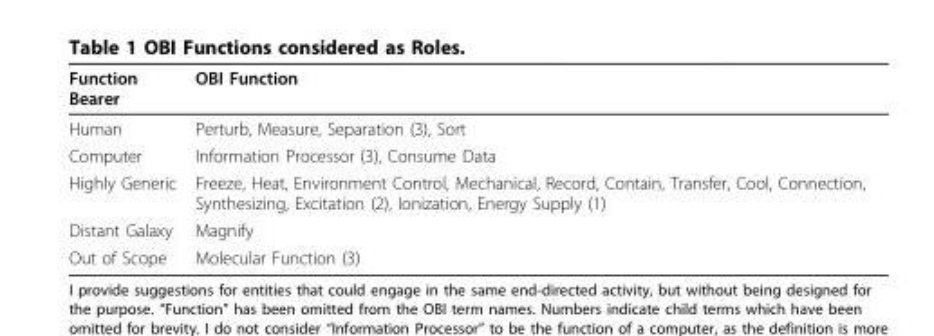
<table><thead><tr><td>Function Bearer</td><td>OBI Function</td></tr></thead><tbody><tr><td>Human</td><td>Perturb, Measure, Separation (3), Sort</td></tr><tr><td>Computer</td><td>Information Processor (3), Consume Data</td></tr><tr><td>Highly Generic</td><td>Freeze, Heat, Environment Control, Mechanical, Record, Contain, Transfer, Cool, Connection, Synthesizing, Excitation (2), Ionization, Energy Supply (1)</td></tr><tr><td>Distant Galaxy</td><td>Magnify</td></tr><tr><td>Out of Scope</td><td>Molecular Function (3)</td></tr></tbody></table>